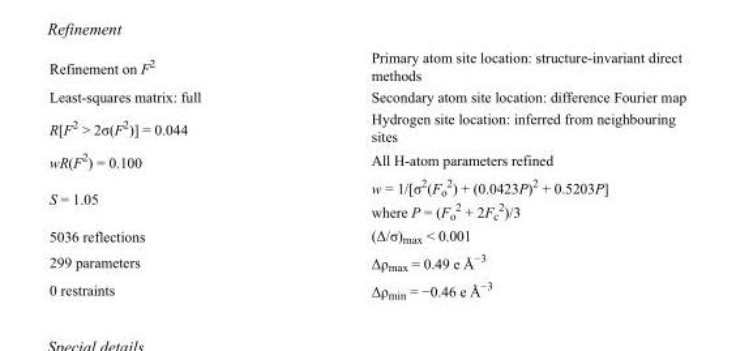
<table><tbody><tr><td>Refinement on F<sup>2</sup></td><td>Primary atom site location: structure-invariant direct methods</td></tr><tr><td>Least-squares matrix: full</td><td>Secondary atom site location: difference Fourier map</td></tr><tr><td>R[F<sup>2</sup> &gt; 2σ(F<sup>2</sup>)] = 0.044</td><td>Hydrogen site location: inferred from neighbouring sites</td></tr><tr><td>wR(F<sup>2</sup>) = 0.100</td><td>All H-atom parameters refined</td></tr><tr><td>S = 1.05</td><td>w = 1/[σ<sup>2</sup>(F<sub>o</sub> <sup>2</sup>) + (0.0423P)<sup>2</sup> + 0.5203P] where P = (F<sub>o</sub> <sup>2</sup> + 2F<sub>c</sub> <sup>2</sup>)/3</td></tr><tr><td>5036 reflections</td><td>(Δ/σ)<sub>max</sub> &lt; 0.001</td></tr><tr><td>299 parameters</td><td>Δρ<sub>max</sub> = 0.49 e Å<sup>−3</sup></td></tr><tr><td>0 restraints</td><td>Δρ<sub>min</sub> = −0.46 e Å<sup>−3</sup></td></tr></tbody></table>